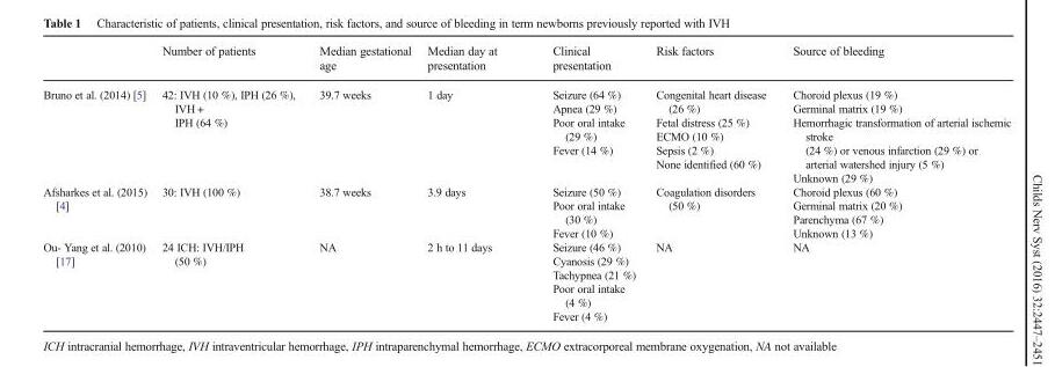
<table><thead><tr><td></td><td>Number of patients</td><td>Median gestational age</td><td>Median day at presentation</td><td>Clinical presentation</td><td>Risk factors</td><td>Source of bleeding</td></tr></thead><tbody><tr><td>Bruno et al. (2014) [5]</td><td>42: IVH (10 %), IPH (26 %), IVH + IPH (64 %)</td><td>39.7 weeks</td><td>1 day</td><td>Seizure (64 %) Apnea (29 %) Poor oral intake (29 %) Fever (14 %)</td><td>Congenital heart disease (26 %) Fetal distress (25 %) ECMO (10 %) Sepsis (2 %) None identified (60 %)</td><td>Choroid plexus (19 %) Germinal matrix (19 %) Hemorrhagic transformation of arterial ischemic stroke (24 %) or venous infarction (29 %) or arterial watershed injury (5 %) Unknown (29 %)</td></tr><tr><td>Afsharkes et al. (2015) [4]</td><td>30: IVH (100 %)</td><td>38.7 weeks</td><td>3.9 days</td><td>Seizure (50 %) Poor oral intake (30 %) Fever (10 %)</td><td>Coagulation disorders (50 %)</td><td>Choroid plexus (60 %) Germinal matrix (20 %) Parenchyma (67 %) Unknown (13 %)</td></tr><tr><td>Ou- Yang et al. (2010) [17]</td><td>24 ICH: IVH/IPH (50 %)</td><td>NA</td><td>2 h to 11 days</td><td>Seizure (46 %) Cyanosis (29 %) Tachypnea (21 %) Poor oral intake (4 %) Fever (4 %)</td><td>NA</td><td>NA</td></tr></tbody></table>